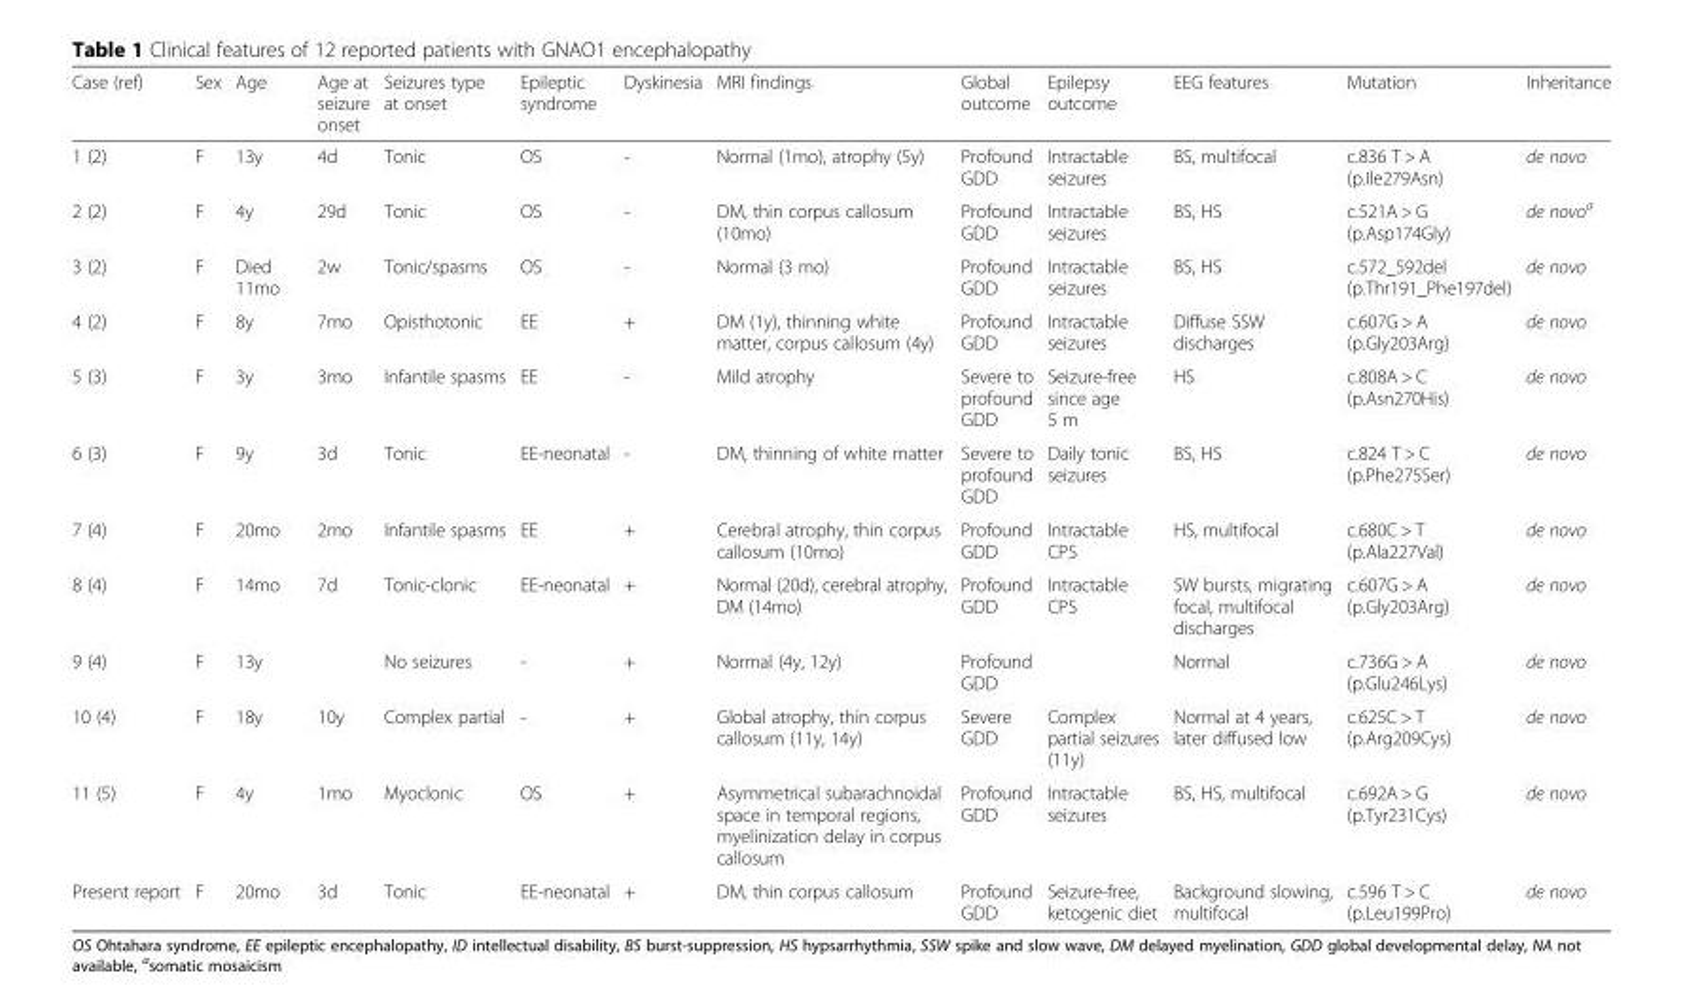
<table><thead><tr><td>Case (ref)</td><td>Sex</td><td>Age</td><td>Age at seizure onset</td><td>Seizures type at onset</td><td>Epileptic syndrome</td><td>Dyskinesia</td><td>MRI findings</td><td>Global outcome</td><td>Epilepsy outcome</td><td>EEG features</td><td>Mutation</td><td>Inheritance</td></tr></thead><tbody><tr><td>1 (2)</td><td>F</td><td>13y</td><td>4d</td><td>Tonic</td><td>OS</td><td>-</td><td>Normal (1mo), atrophy (5y)</td><td>Profound GDD</td><td>Intractable seizures</td><td>BS, multifocal</td><td>c.836 T &gt; A (p.Ile279Asn)</td><td>de novo</td></tr><tr><td>2 (2)</td><td>F</td><td>4y</td><td>29d</td><td>Tonic</td><td>OS</td><td>-</td><td>DM, thin corpus callosum (10mo)</td><td>Profound GDD</td><td>Intractable seizures</td><td>BS, HS</td><td>c.521A &gt; G (p.Asp174Gly)</td><td>de novo<sup>a</sup></td></tr><tr><td>3 (2)</td><td>F</td><td>Died 11mo</td><td>2w</td><td>Tonic/spasms</td><td>OS</td><td>-</td><td>Normal (3 mo)</td><td>Profound GDD</td><td>Intractable seizures</td><td>BS, HS</td><td>c.572_592del (p.Thr191_Phe197del)</td><td>de novo</td></tr><tr><td>4 (2)</td><td>F</td><td>8y</td><td>7mo</td><td>Opisthotonic</td><td>EE</td><td>+</td><td>DM (1y), thinning white matter, corpus callosum (4y)</td><td>Profound GDD</td><td>Intractable seizures</td><td>Diffuse SSW discharges</td><td>c.607G &gt; A (p.Gly203Arg)</td><td>de novo</td></tr><tr><td>5 (3)</td><td>F</td><td>3y</td><td>3mo</td><td>Infantile spasms</td><td>EE</td><td>-</td><td>Mild atrophy</td><td>Severe to profound GDD</td><td>Seizure-free since age 5 m</td><td>HS</td><td>c.808A &gt; C (p.Asn270His)</td><td>de novo</td></tr><tr><td>6 (3)</td><td>F</td><td>9y</td><td>3d</td><td>Tonic</td><td>EE-neonatal</td><td>-</td><td>DM, thinning of white matter</td><td>Severe to profound GDD</td><td>Daily tonic seizures</td><td>BS, HS</td><td>c.824 T &gt; C (p.Phe275Ser)</td><td>de novo</td></tr><tr><td>7 (4)</td><td>F</td><td>20mo</td><td>2mo</td><td>Infantile spasms</td><td>EE</td><td>+</td><td>Cerebral atrophy, thin corpus callosum (10mo)</td><td>Profound GDD</td><td>Intractable CPS</td><td>HS, multifocal</td><td>c.680C &gt; T (p.Ala227Val)</td><td>de novo</td></tr><tr><td>8 (4)</td><td>F</td><td>14mo</td><td>7d</td><td>Tonic-clonic</td><td>EE-neonatal</td><td>+</td><td>Normal (20d), cerebral atrophy, DM (14mo)</td><td>Profound GDD</td><td>Intractable CPS</td><td>SW bursts, migrating focal, multifocal discharges</td><td>c.607G &gt; A (p.Gly203Arg)</td><td>de novo</td></tr><tr><td>9 (4)</td><td>F</td><td>13y</td><td></td><td>No seizures</td><td>-</td><td>+</td><td>Normal (4y, 12y)</td><td>Profound GDD</td><td></td><td>Normal</td><td>c.736G &gt; A (p.Glu246Lys)</td><td>de novo</td></tr><tr><td>10 (4)</td><td>F</td><td>18y</td><td>10y</td><td>Complex partial</td><td>-</td><td>+</td><td>Global atrophy, thin corpus callosum (11y, 14y)</td><td>Severe GDD</td><td>Complex partial seizures (11y)</td><td>Normal at 4 years, later diffused low</td><td>c.625C &gt; T (p.Arg209Cys)</td><td>de novo</td></tr><tr><td>11 (5)</td><td>F</td><td>4y</td><td>1mo</td><td>Myoclonic</td><td>OS</td><td>+</td><td>Asymmetrical subarachnoidal space in temporal regions, myelinization delay in corpus callosum</td><td>Profound GDD</td><td>Intractable seizures</td><td>BS, HS, multifocal</td><td>c.692A &gt; G (p.Tyr231Cys)</td><td>de novo</td></tr><tr><td>Present report</td><td>F</td><td>20mo</td><td>3d</td><td>Tonic</td><td>EE-neonatal</td><td>+</td><td>DM, thin corpus callosum</td><td>Profound GDD</td><td>Seizure-free, ketogenic diet</td><td>Background slowing, multifocal</td><td>c.596 T &gt; C (p.Leu199Pro)</td><td>de novo</td></tr></tbody></table>